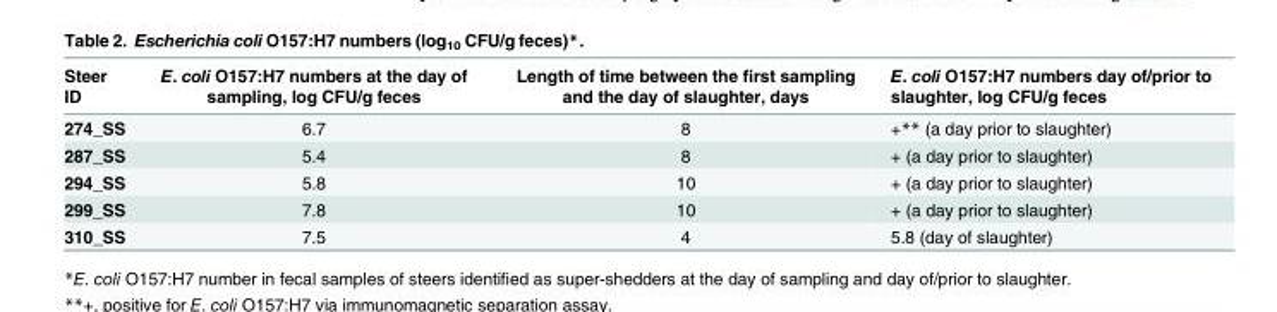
<table><thead><tr><td>Steer ID</td><td>E. coli O157:H7 numbers at the day of sampling, log CFU/g feces</td><td>Length of time between the first sampling and the day of slaughter, days</td><td>E. coli O157:H7 numbers day of/prior to slaughter, log CFU/g feces</td></tr></thead><tbody><tr><td>274_SS</td><td>6.7</td><td>8</td><td>+** (a day prior to slaughter)</td></tr><tr><td>287_SS</td><td>5.4</td><td>8</td><td>+ (a day prior to slaughter)</td></tr><tr><td>294_SS</td><td>5.8</td><td>10</td><td>+ (a day prior to slaughter)</td></tr><tr><td>299_SS</td><td>7.8</td><td>10</td><td>+ (a day prior to slaughter)</td></tr><tr><td>310_SS</td><td>7.5</td><td>4</td><td>5.8 (day of slaughter)</td></tr></tbody></table>